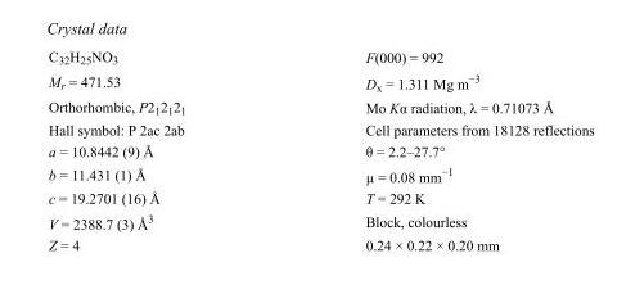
<table><tbody><tr><td>C<sub>32</sub>H<sub>25</sub>NO<sub>3</sub></td><td>F(000) = 992</td></tr><tr><td>M<sub>r</sub> = 471.53</td><td>D<sub>x</sub> = 1.311 Mg m<sup>−3</sup></td></tr><tr><td>Orthorhombic, P2<sub>1</sub>2<sub>1</sub>2<sub>1</sub></td><td>Mo Kα radiation, λ = 0.71073 Å</td></tr><tr><td>Hall symbol: P 2ac 2ab</td><td>Cell parameters from 18128 reflections</td></tr><tr><td>a = 10.8442 (9) Å</td><td>θ = 2.2–27.7°</td></tr><tr><td>b = 11.431 (1) Å</td><td>µ = 0.08 mm<sup>−1</sup></td></tr><tr><td>c = 19.2701 (16) Å</td><td>T = 292 K</td></tr><tr><td>V = 2388.7 (3) Å<sup>3</sup></td><td>Block, colourless</td></tr><tr><td>Z = 4</td><td>0.24 × 0.22 × 0.20 mm</td></tr></tbody></table>